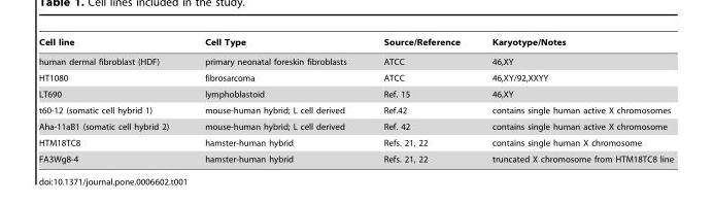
<table><thead><tr><td>Cell line</td><td>Cell Type</td><td>Source/Reference</td><td>Karyotype/Notes</td></tr></thead><tbody><tr><td>human dermal fibroblast (HDF)</td><td>primary neonatal foreskin fibroblasts</td><td>ATCC</td><td>46,XY</td></tr><tr><td>HT1080</td><td>fibrosarcoma</td><td>ATCC</td><td>46,XY/92,XXYY</td></tr><tr><td>LT690</td><td>lymphoblastoid</td><td>Ref. 15</td><td>46,XY</td></tr><tr><td>t60-12 (somatic cell hybrid 1)</td><td>mouse-human hybrid; L cell derived</td><td>Ref.42</td><td>contains single human active X chromosomes</td></tr><tr><td>Aha-11aB1 (somatic cell hybrid 2)</td><td>mouse-human hybrid; L cell derived</td><td>Ref. 42</td><td>contains single human active X chromosome</td></tr><tr><td>HTM18TC8</td><td>hamster-human hybrid</td><td>Refs. 21, 22</td><td>contains single human X chromosome</td></tr><tr><td>FA3Wg8-4</td><td>hamster-human hybrid</td><td>Refs. 21, 22</td><td>truncated X chromosome from HTM18TC8 line</td></tr></tbody></table>